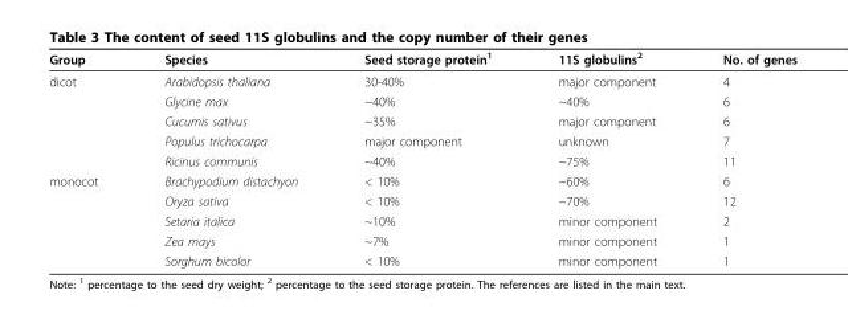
<table><thead><tr><td>Group</td><td>Species</td><td>Seed storage protein<sup>1</sup></td><td>11S globulins<sup>2</sup></td><td>No. of genes</td></tr></thead><tbody><tr><td rowspan="5">dicot</td><td>Arabidopsis thaliana</td><td>30-40%</td><td>major component</td><td>4</td></tr><tr><td>Glycine max</td><td>~40%</td><td>~40%</td><td>6</td></tr><tr><td>Cucumis sativus</td><td>~35%</td><td>major component</td><td>6</td></tr><tr><td>Populus trichocarpa</td><td>major component</td><td>unknown</td><td>7</td></tr><tr><td>Ricinus communis</td><td>~40%</td><td>~75%</td><td>11</td></tr><tr><td rowspan="5">monocot</td><td>Brachypodium distachyon</td><td>&lt; 10%</td><td>~60%</td><td>6</td></tr><tr><td>Oryza sativa</td><td>&lt; 10%</td><td>~70%</td><td>12</td></tr><tr><td>Setaria italica</td><td>~10%</td><td>minor component</td><td>2</td></tr><tr><td>Zea mays</td><td>~7%</td><td>minor component</td><td>1</td></tr><tr><td>Sorghum bicolor</td><td>&lt; 10%</td><td>minor component</td><td>1</td></tr></tbody></table>